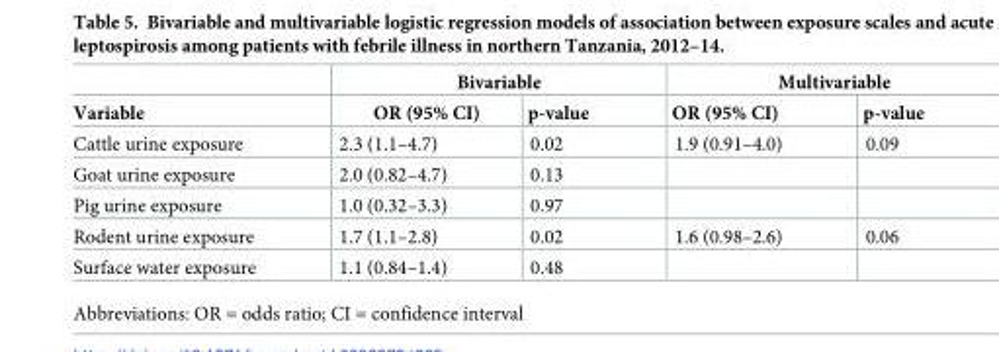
<table><thead><tr><td rowspan="2">Variable</td><td colspan="2">Bivariable</td><td colspan="2">Multivariable</td></tr><tr><td>OR (95% CI)</td><td>p-value</td><td>OR (95% CI)</td><td>p-value</td></tr></thead><tbody><tr><td>Cattle urine exposure</td><td>2.3 (1.1–4.7)</td><td>0.02</td><td>1.9 (0.91–4.0)</td><td>0.09</td></tr><tr><td>Goat urine exposure</td><td>2.0 (0.82–4.7)</td><td>0.13</td><td></td><td></td></tr><tr><td>Pig urine exposure</td><td>1.0 (0.32–3.3)</td><td>0.97</td><td></td><td></td></tr><tr><td>Rodent urine exposure</td><td>1.7 (1.1–2.8)</td><td>0.02</td><td>1.6 (0.98–2.6)</td><td>0.06</td></tr><tr><td>Surface water exposure</td><td>1.1 (0.84–1.4)</td><td>0.48</td><td></td><td></td></tr></tbody></table>